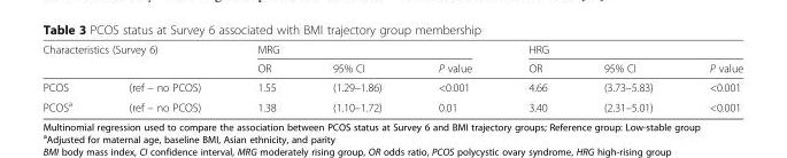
<table><thead><tr><td rowspan="2" colspan="2">Characteristics (Survey 6)</td><td colspan="3">MRG</td><td colspan="3">HRG</td></tr><tr><td rowspan="2">OR 1.55</td><td rowspan="2">95% CI (1.29–1.86)</td><td rowspan="2">P value &lt;0.001</td><td rowspan="2">OR 4.66</td><td rowspan="2">95% CI (3.73–5.83)</td><td rowspan="2">P value &lt;0.001</td></tr><tr><td>PCOS</td><td>(ref – no PCOS)</td></tr></thead><tbody><tr><td>PCOS<sup>a</sup></td><td>(ref – no PCOS)</td><td>1.38</td><td>(1.10–1.72)</td><td>0.01</td><td>3.40</td><td>(2.31–5.01)</td><td>&lt;0.001</td></tr></tbody></table>